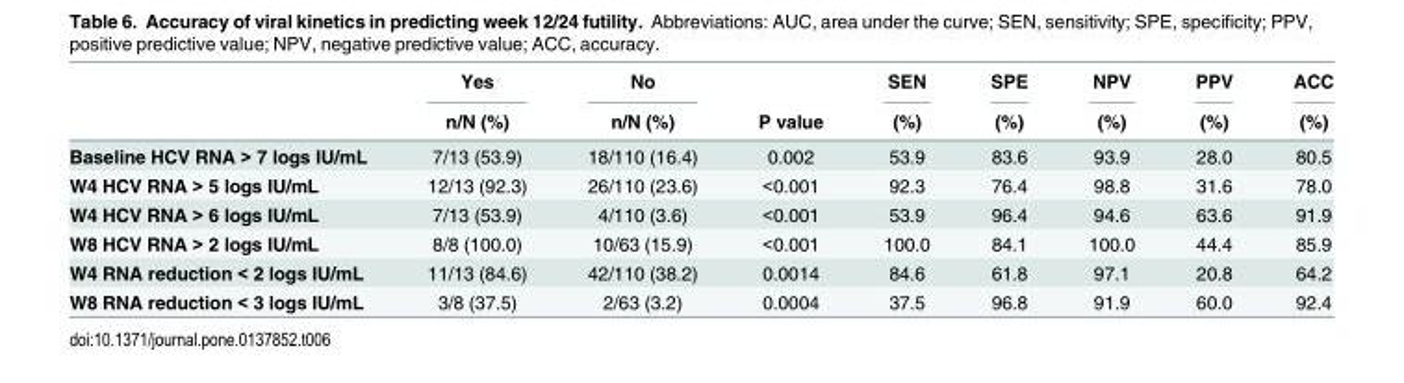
<table><thead><tr><td rowspan="2"></td><td rowspan="2">Yes n/N (%)</td><td rowspan="2">No n/N (%)</td><td rowspan="2">P value</td><td rowspan="2">SEN (%)</td><td rowspan="2">SPE (%)</td><td rowspan="2">NPV (%)</td><td rowspan="2">PPV (%)</td><td rowspan="2">ACC (%)</td></tr><tr></tr></thead><tbody><tr><td>Baseline HCV RNA &gt; 7 logs IU/mL</td><td>7/13 (53.9)</td><td>18/110 (16.4)</td><td>0.002</td><td>53.9</td><td>83.6</td><td>93.9</td><td>28.0</td><td>80.5</td></tr><tr><td>W4 HCV RNA &gt; 5 logs IU/mL</td><td>12/13 (92.3)</td><td>26/110 (23.6)</td><td>&lt;0.001</td><td>92.3</td><td>76.4</td><td>98.8</td><td>31.6</td><td>78.0</td></tr><tr><td>W4 HCV RNA &gt; 6 logs IU/mL</td><td>7/13 (53.9)</td><td>4/110 (3.6)</td><td>&lt;0.001</td><td>53.9</td><td>96.4</td><td>94.6</td><td>63.6</td><td>91.9</td></tr><tr><td>W8 HCV RNA &gt; 2 logs IU/mL</td><td>8/8 (100.0)</td><td>10/63 (15.9)</td><td>&lt;0.001</td><td>100.0</td><td>84.1</td><td>100.0</td><td>44.4</td><td>85.9</td></tr><tr><td>W4 RNA reduction &lt; 2 logs IU/mL</td><td>11/13 (84.6)</td><td>42/110 (38.2)</td><td>0.0014</td><td>84.6</td><td>61.8</td><td>97.1</td><td>20.8</td><td>64.2</td></tr><tr><td>W8 RNA reduction &lt; 3 logs IU/mL</td><td>3/8 (37.5)</td><td>2/63 (3.2)</td><td>0.0004</td><td>37.5</td><td>96.8</td><td>91.9</td><td>60.0</td><td>92.4</td></tr></tbody></table>